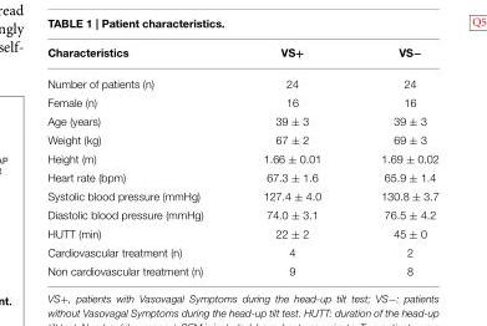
<table><thead><tr><td>Characteristics</td><td>VS+</td><td>VS−</td></tr></thead><tbody><tr><td>Number of patients (n)</td><td>24</td><td>24</td></tr><tr><td>Female (n)</td><td>16</td><td>16</td></tr><tr><td>Age (years)</td><td>39 ± 3</td><td>39 ± 3</td></tr><tr><td>Weight (kg)</td><td>67 ± 2</td><td>69 ± 3</td></tr><tr><td>Height (m)</td><td>1.66 ± 0.01</td><td>1.69 ± 0.02</td></tr><tr><td>Heart rate (bpm)</td><td>67.3 ± 1.6</td><td>65.9 ± 1.4</td></tr><tr><td>Systolic blood pressure (mmHg)</td><td>127.4 ± 4.0</td><td>130.8 ± 3.7</td></tr><tr><td>Diastolic blood pressure (mmHg)</td><td>74.0 ± 3.1</td><td>76.5 ± 4.2</td></tr><tr><td>HUTT (min)</td><td>22 ± 2</td><td>45 ± 0</td></tr><tr><td>Cardiovascular treatment (n)</td><td>4</td><td>2</td></tr><tr><td>Non cardiovascular treatment (n)</td><td>9</td><td>8</td></tr></tbody></table>